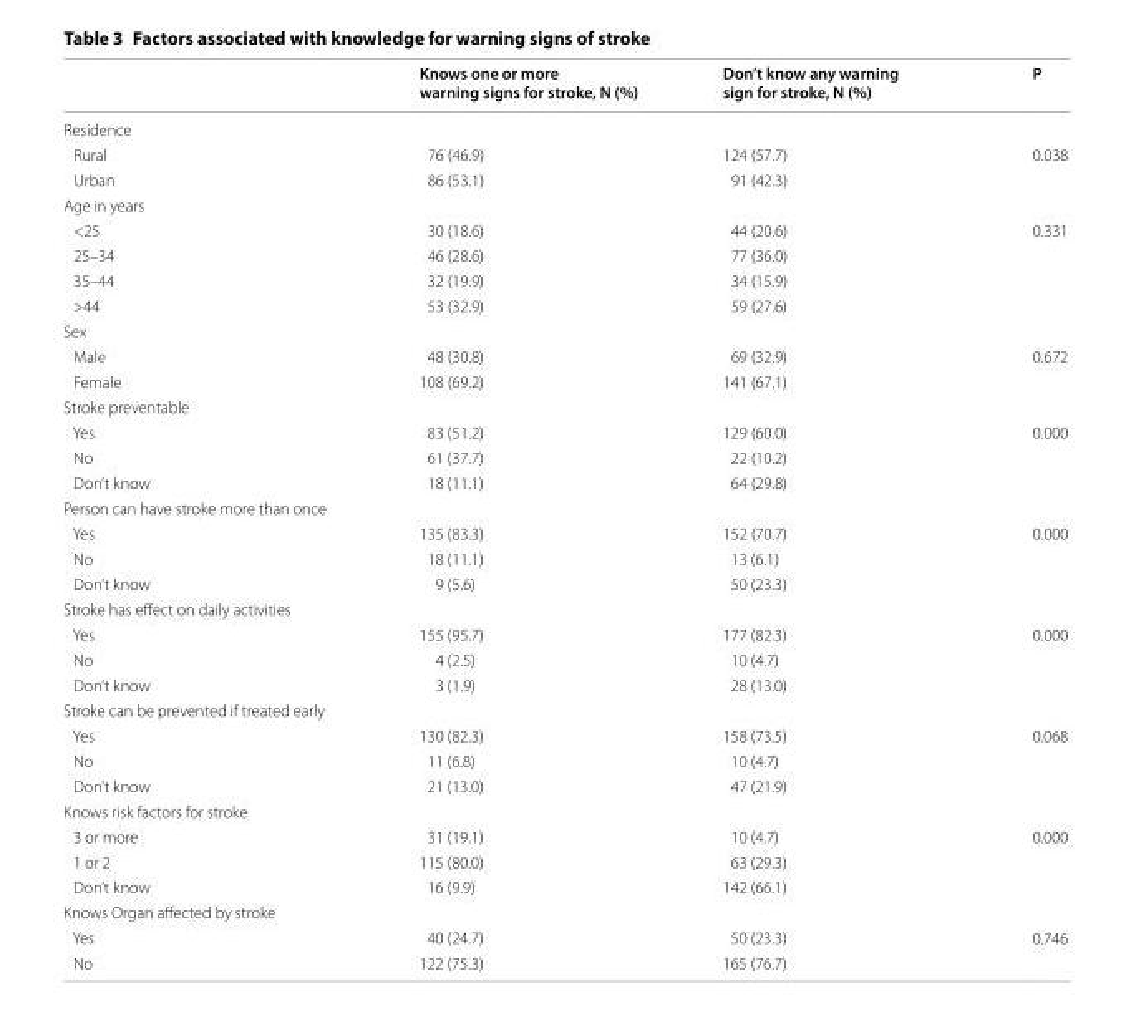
<table><thead><tr><td></td><td>Knows one or more warning signs for stroke, N (%)</td><td>Don’t know any warning sign for stroke, N (%)</td><td>P</td></tr></thead><tbody><tr><td colspan="4">Residence</td></tr><tr><td>Rural</td><td>76 (46.9)</td><td>124 (57.7)</td><td rowspan="2">0.038</td></tr><tr><td>Urban</td><td>86 (53.1)</td><td>91 (42.3)</td></tr><tr><td colspan="4">Age in years</td></tr><tr><td>&lt;25</td><td>30 (18.6)</td><td>44 (20.6)</td><td rowspan="4">0.331</td></tr><tr><td>25–34</td><td>46 (28.6)</td><td>77 (36.0)</td></tr><tr><td>35–44</td><td>32 (19.9)</td><td>34 (15.9)</td></tr><tr><td>&gt;44</td><td>53 (32.9)</td><td>59 (27.6)</td></tr><tr><td colspan="4">Sex</td></tr><tr><td>Male</td><td>48 (30.8)</td><td>69 (32.9)</td><td rowspan="2">0.672</td></tr><tr><td>Female</td><td>108 (69.2)</td><td>141 (67.1)</td></tr><tr><td colspan="4">Stroke preventable</td></tr><tr><td>Yes</td><td>83 (51.2)</td><td>129 (60.0)</td><td rowspan="3">0.000</td></tr><tr><td>No</td><td>61 (37.7)</td><td>22 (10.2)</td></tr><tr><td>Don’t know</td><td>18 (11.1)</td><td>64 (29.8)</td></tr><tr><td colspan="4">Person can have stroke more than once</td></tr><tr><td>Yes</td><td>135 (83.3)</td><td>152 (70.7)</td><td>0.000</td></tr><tr><td>No</td><td>18 (11.1)</td><td>13 (6.1)</td><td></td></tr><tr><td>Don’t know</td><td>9 (5.6)</td><td>50 (23.3)</td><td></td></tr><tr><td colspan="4">Stroke has effect on daily activities</td></tr><tr><td>Yes</td><td>155 (95.7)</td><td>177 (82.3)</td><td rowspan="3">0.000</td></tr><tr><td>No</td><td>4 (2.5)</td><td>10 (4.7)</td></tr><tr><td>Don’t know</td><td>3 (1.9)</td><td>28 (13.0)</td></tr><tr><td colspan="4">Stroke can be prevented if treated early</td></tr><tr><td>Yes</td><td>130 (82.3)</td><td>158 (73.5)</td><td rowspan="3">0.068</td></tr><tr><td>No</td><td>11 (6.8)</td><td>10 (4.7)</td></tr><tr><td>Don’t know</td><td>21 (13.0)</td><td>47 (21.9)</td></tr><tr><td colspan="4">Knows risk factors for stroke</td></tr><tr><td>3 or more</td><td>31 (19.1)</td><td>10 (4.7)</td><td rowspan="3">0.000</td></tr><tr><td>1 or 2</td><td>115 (80.0)</td><td>63 (29.3)</td></tr><tr><td>Don’t know</td><td>16 (9.9)</td><td>142 (66.1)</td></tr><tr><td colspan="4">Knows Organ affected by stroke</td></tr><tr><td>Yes</td><td>40 (24.7)</td><td>50 (23.3)</td><td rowspan="2">0.746</td></tr><tr><td>No</td><td>122 (75.3)</td><td>165 (76.7)</td></tr></tbody></table>